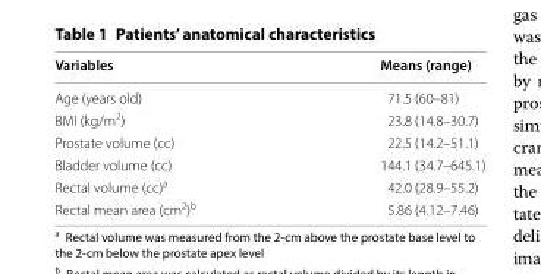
<table><thead><tr><td>Variables</td><td>Means (range)</td></tr></thead><tbody><tr><td>Age (years old)</td><td>71.5 (60–81)</td></tr><tr><td>BMI (kg/m<sup>2</sup>)</td><td>23.8 (14.8–30.7)</td></tr><tr><td>Prostate volume (cc)</td><td>22.5 (14.2–51.1)</td></tr><tr><td>Bladder volume (cc)</td><td>144.1 (34.7–645.1)</td></tr><tr><td>Rectal volume (cc)<sup>a</sup></td><td>42.0 (28.9–55.2)</td></tr><tr><td>Rectal mean area (cm<sup>2</sup>)<sup>b</sup></td><td>5.86 (4.12–7.46)</td></tr></tbody></table>